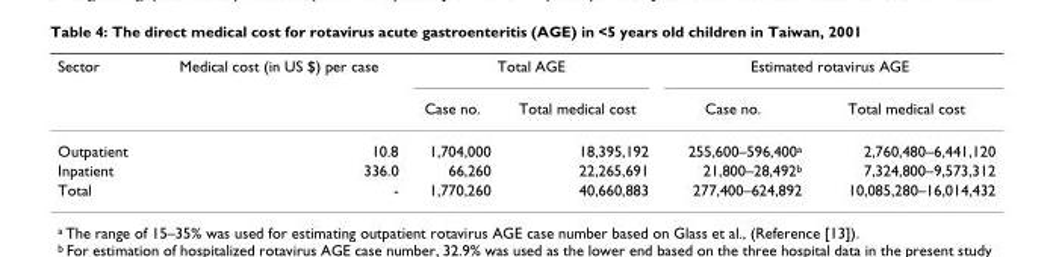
<table><thead><tr><td rowspan="2">Sector</td><td rowspan="2">Medical cost (in US $) per case</td><td colspan="2">Total AGE</td><td colspan="2">Estimated rotavirus AGE</td></tr><tr><td>Case no.</td><td>Total medical cost</td><td>Case no.</td><td>Total medical cost</td></tr></thead><tbody><tr><td>Outpatient</td><td>10.8</td><td>1,704,000</td><td>18,395,192</td><td>255,600–596,400<sup>a</sup></td><td>2,760,480–6,441,120</td></tr><tr><td>Inpatient</td><td>336.0</td><td>66,260</td><td>22,265,691</td><td>21,800–28,492<sup>b</sup></td><td>7,324,800–9,573,312</td></tr><tr><td>Total</td><td>-</td><td>1,770,260</td><td>40,660,883</td><td>277,400–624,892</td><td>10,085,280–16,014,432</td></tr></tbody></table>